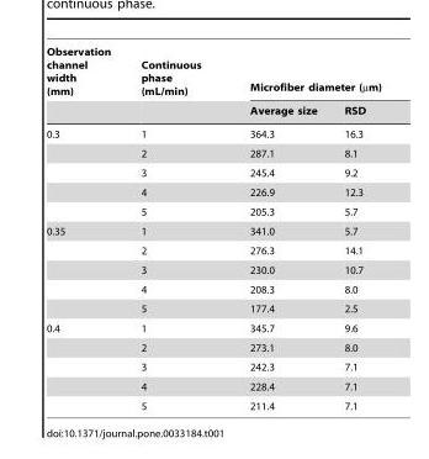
<table><thead><tr><td rowspan="2">Observation channel width (mm)</td><td rowspan="2">Continuous phase (mL/min)</td><td colspan="2">Microfiber diameter (µm)</td></tr><tr><td>Average size</td><td>RSD</td></tr></thead><tbody><tr><td rowspan="5">0.3</td><td>1</td><td>364.3</td><td>16.3</td></tr><tr><td>2</td><td>287.1</td><td>8.1</td></tr><tr><td>3</td><td>245.4</td><td>9.2</td></tr><tr><td>4</td><td>226.9</td><td>12.3</td></tr><tr><td>5</td><td>205.3</td><td>5.7</td></tr><tr><td rowspan="5">0.35</td><td>1</td><td>341.0</td><td>5.7</td></tr><tr><td>2</td><td>276.3</td><td>14.1</td></tr><tr><td>3</td><td>230.0</td><td>10.7</td></tr><tr><td>4</td><td>208.3</td><td>8.0</td></tr><tr><td>5</td><td>177.4</td><td>2.5</td></tr><tr><td rowspan="5">0.4</td><td>1</td><td>345.7</td><td>9.6</td></tr><tr><td>2</td><td>273.1</td><td>8.0</td></tr><tr><td>3</td><td>242.3</td><td>7.1</td></tr><tr><td>4</td><td>228.4</td><td>7.1</td></tr><tr><td>5</td><td>211.4</td><td>7.1</td></tr></tbody></table>